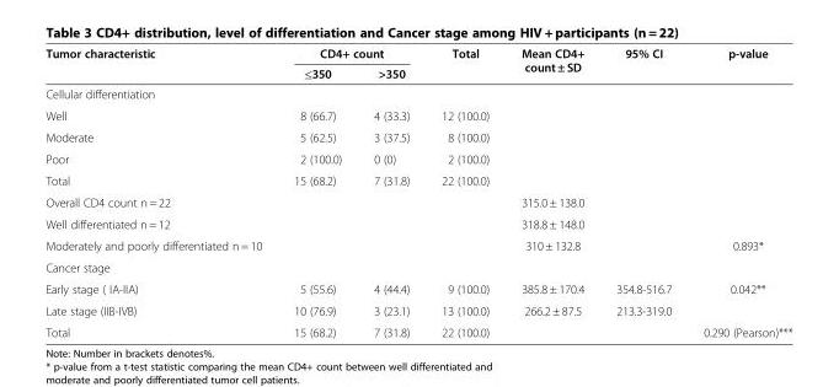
<table><thead><tr><td rowspan="2">Tumor characteristic</td><td colspan="2">CD4+ count</td><td rowspan="2">Total</td><td rowspan="2">Mean CD4+ count ± SD</td><td rowspan="2">95% CI</td><td rowspan="2">p-value</td></tr><tr><td>≤350</td><td>&gt;350</td></tr></thead><tbody><tr><td colspan="7">Cellular differentiation</td></tr><tr><td>Well</td><td>8 (66.7)</td><td>4 (33.3)</td><td>12 (100.0)</td><td></td><td></td><td></td></tr><tr><td>Moderate</td><td>5 (62.5)</td><td>3 (37.5)</td><td>8 (100.0)</td><td></td><td></td><td></td></tr><tr><td>Poor</td><td>2 (100.0)</td><td>0 (0)</td><td>2 (100.0)</td><td></td><td></td><td></td></tr><tr><td>Total</td><td>15 (68.2)</td><td>7 (31.8)</td><td>22 (100.0)</td><td></td><td></td><td></td></tr><tr><td>Overall CD4 count n = 22</td><td></td><td></td><td></td><td>315.0 ± 138.0</td><td></td><td></td></tr><tr><td>Well differentiated n = 12</td><td></td><td></td><td></td><td>318.8 ± 148.0</td><td></td><td></td></tr><tr><td>Moderately and poorly differentiated n = 10</td><td></td><td></td><td></td><td>310 ± 132.8</td><td></td><td>0.893*</td></tr><tr><td colspan="7">Cancer stage</td></tr><tr><td>Early stage ( IA-IIA)</td><td>5 (55.6)</td><td>4 (44.4)</td><td>9 (100.0)</td><td>385.8 ± 170.4</td><td>354.8-516.7</td><td>0.042**</td></tr><tr><td>Late stage (IIB-IVB)</td><td>10 (76.9)</td><td>3 (23.1)</td><td>13 (100.0)</td><td>266.2 ± 87.5</td><td>213.3-319.0</td><td></td></tr><tr><td>Total</td><td>15 (68.2)</td><td>7 (31.8)</td><td>22 (100.0)</td><td></td><td></td><td>0.290 (Pearson)***</td></tr></tbody></table>